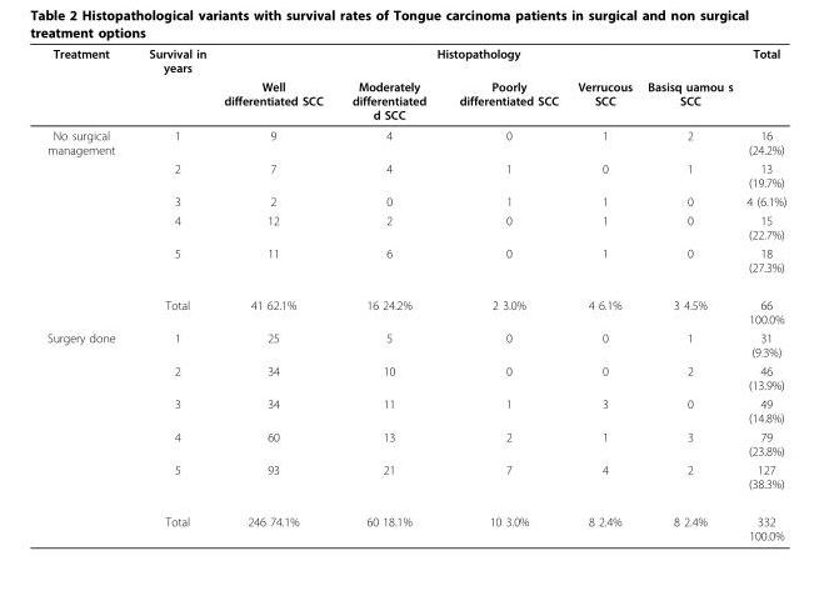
<table><thead><tr><td rowspan="2">Treatment</td><td rowspan="2">Survival in years</td><td colspan="5">Histopathology</td><td rowspan="2">Total</td></tr><tr><td>Well differentiated SCC</td><td>Moderately differentiated d SCC</td><td>Poorly differentiated SCC</td><td>Verrucous SCC</td><td>Basisq uamou s SCC</td></tr></thead><tbody><tr><td rowspan="6">No surgical management</td><td>1</td><td>9</td><td>4</td><td>0</td><td>1</td><td>2</td><td>16 (24.2%)</td></tr><tr><td>2</td><td>7</td><td>4</td><td>1</td><td>0</td><td>1</td><td>13 (19.7%)</td></tr><tr><td>3</td><td>2</td><td>0</td><td>1</td><td>1</td><td>0</td><td>4 (6.1%)</td></tr><tr><td>4</td><td>12</td><td>2</td><td>0</td><td>1</td><td>0</td><td>15 (22.7%)</td></tr><tr><td>5</td><td>11</td><td>6</td><td>0</td><td>1</td><td>0</td><td>18 (27.3%)</td></tr><tr><td>Total</td><td>41 62.1%</td><td>16 24.2%</td><td>2 3.0%</td><td>4 6.1%</td><td>3 4.5%</td><td>66 100.0%</td></tr><tr><td rowspan="6">Surgery done</td><td>1</td><td>25</td><td>5</td><td>0</td><td>0</td><td>1</td><td>31 (9.3%)</td></tr><tr><td>2</td><td>34</td><td>10</td><td>0</td><td>0</td><td>2</td><td>46 (13.9%)</td></tr><tr><td>3</td><td>34</td><td>11</td><td>1</td><td>3</td><td>0</td><td>49 (14.8%)</td></tr><tr><td>4</td><td>60</td><td>13</td><td>2</td><td>1</td><td>3</td><td>79 (23.8%)</td></tr><tr><td>5</td><td>93</td><td>21</td><td>7</td><td>4</td><td>2</td><td>127 (38.3%)</td></tr><tr><td>Total</td><td>246 74.1%</td><td>60 18.1%</td><td>10 3.0%</td><td>8 2.4%</td><td>8 2.4%</td><td>332 100.0%</td></tr></tbody></table>